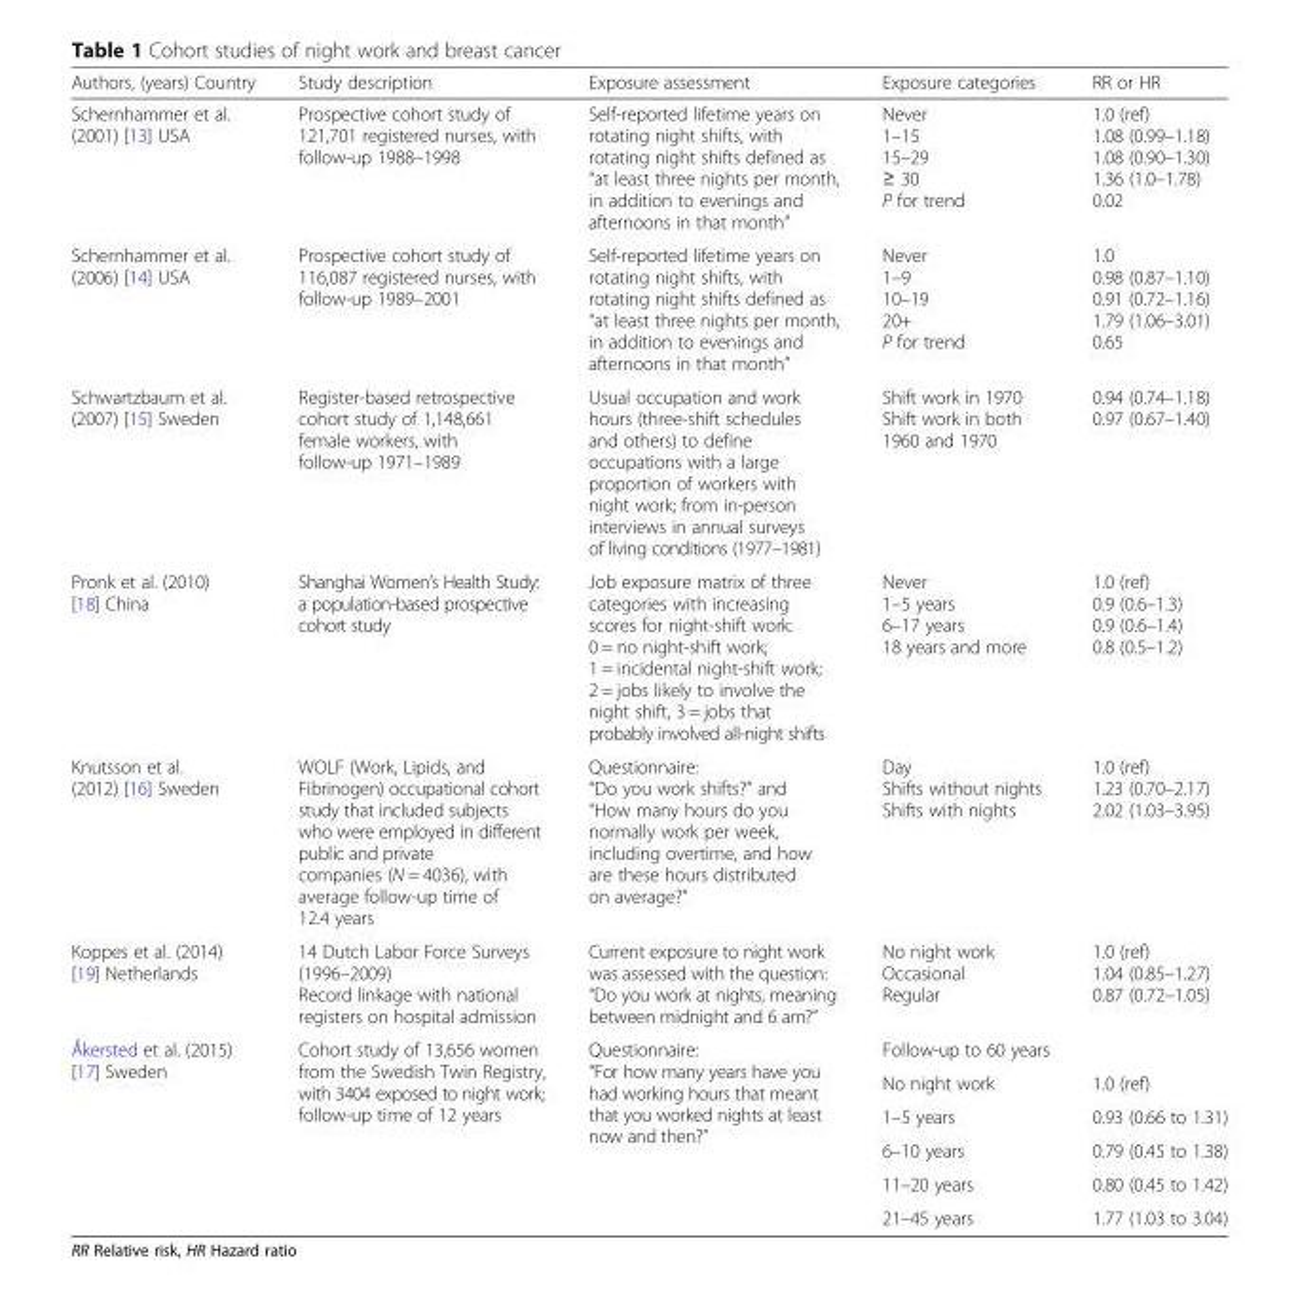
<table><thead><tr><td>Authors, (years) Country</td><td>Study description</td><td>Exposure assessment</td><td>Exposure categories</td><td>RR or HR</td></tr></thead><tbody><tr><td>Schernhammer et al. (2001) [13] USA</td><td>Prospective cohort study of 121,701 registered nurses, with follow-up 1988–1998</td><td>Self-reported lifetime years on rotating night shifts, with rotating night shifts defined as “at least three nights per month, in addition to evenings and afternoons in that month”</td><td>Never 1–15 15–29 ≥ 30 P for trend</td><td>1.0 (ref) 1.08 (0.99–1.18) 1.08 (0.90–1.30) 1.36 (1.0–1.78) 0.02</td></tr><tr><td>Schernhammer et al. (2006) [14] USA</td><td>Prospective cohort study of 116,087 registered nurses, with follow-up 1989–2001</td><td>Self-reported lifetime years on rotating night shifts, with rotating night shifts defined as “at least three nights per month, in addition to evenings and afternoons in that month”</td><td>Never 1–9 10–19 20+ P for trend</td><td>1.0 0.98 (0.87–1.10) 0.91 (0.72–1.16) 1.79 (1.06–3.01) 0.65</td></tr><tr><td>Schwartzbaum et al. (2007) [15] Sweden</td><td>Register-based retrospective cohort study of 1,148,661 female workers, with follow-up 1971–1989</td><td>Usual occupation and work hours (three-shift schedules and others) to define occupations with a large proportion of workers with night work; from in-person interviews in annual surveys of living conditions (1977–1981)</td><td>Shift work in 1970 Shift work in both 1960 and 1970</td><td>0.94 (0.74–1.18) 0.97 (0.67–1.40)</td></tr><tr><td>Pronk et al. (2010) [18] China</td><td>Shanghai Women’s Health Study: a population-based prospective cohort study</td><td>Job exposure matrix of three categories with increasing scores for night-shift work: 0 = no night-shift work; 1 = incidental night-shift work; 2 = jobs likely to involve the night shift, 3 = jobs that probably involved all-night shifts</td><td>Never 1–5 years 6–17 years 18 years and more</td><td>1.0 (ref) 0.9 (0.6–1.3) 0.9 (0.6–1.4) 0.8 (0.5–1.2)</td></tr><tr><td>Knutsson et al. (2012) [16] Sweden</td><td>WOLF (Work, Lipids, and Fibrinogen) occupational cohort study that included subjects who were employed in different public and private companies (N = 4036), with average follow-up time of 12.4 years</td><td>Questionnaire: “Do you work shifts?” and “How many hours do you normally work per week, including overtime, and how are these hours distributed on average?”</td><td>Day Shifts without nights Shifts with nights</td><td>1.0 (ref) 1.23 (0.70–2.17) 2.02 (1.03–3.95)</td></tr><tr><td>Koppes et al. (2014) [19] Netherlands</td><td>14 Dutch Labor Force Surveys (1996–2009) Record linkage with national registers on hospital admission</td><td>Current exposure to night work was assessed with the question: “Do you work at nights, meaning between midnight and 6 am?”</td><td>No night work Occasional Regular</td><td>1.0 (ref) 1.04 (0.85–1.27) 0.87 (0.72–1.05)</td></tr><tr><td rowspan="6">Åkersted et al. (2015) [17] Sweden</td><td rowspan="6">Cohort study of 13,656 women from the Swedish Twin Registry, with 3404 exposed to night work; follow-up time of 12 years</td><td rowspan="6">Questionnaire: “For how many years have you had working hours that meant that you worked nights at least now and then?”</td><td>Follow-up to 60 years</td><td></td></tr><tr><td>No night work</td><td>1.0 (ref)</td></tr><tr><td>1–5 years</td><td>0.93 (0.66 to 1.31)</td></tr><tr><td>6–10 years</td><td>0.79 (0.45 to 1.38)</td></tr><tr><td>11–20 years</td><td>0.80 (0.45 to 1.42)</td></tr><tr><td>21–45 years</td><td>1.77 (1.03 to 3.04)</td></tr></tbody></table>